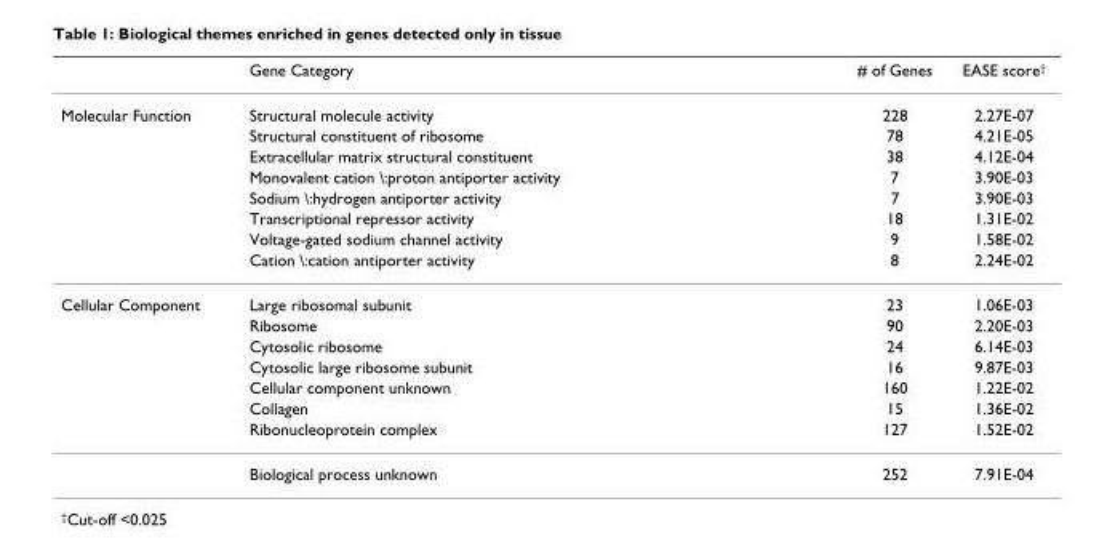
<table><thead><tr><td></td><td>Gene Category</td><td># of Genes</td><td>EASE score<sup>†</sup></td></tr></thead><tbody><tr><td rowspan="8">Molecular Function</td><td>Structural molecule activity</td><td>228</td><td>2.27E-07</td></tr><tr><td>Structural constituent of ribosome</td><td>78</td><td>4.21E-05</td></tr><tr><td>Extracellular matrix structural constituent</td><td>38</td><td>4.12E-04</td></tr><tr><td>Monovalent cation \:proton antiporter activity</td><td>7</td><td>3.90E-03</td></tr><tr><td>Sodium \:hydrogen antiporter activity</td><td>7</td><td>3.90E-03</td></tr><tr><td>Transcriptional repressor activity</td><td>18</td><td>1.31E-02</td></tr><tr><td>Voltage-gated sodium channel activity</td><td>9</td><td>1.58E-02</td></tr><tr><td>Cation \:cation antiporter activity</td><td>8</td><td>2.24E-02</td></tr><tr><td rowspan="8">Cellular Component</td><td>Large ribosomal subunit</td><td>23</td><td>1.06E-03</td></tr><tr><td>Ribosome</td><td>90</td><td>2.20E-03</td></tr><tr><td>Cytosolic ribosome</td><td>24</td><td>6.14E-03</td></tr><tr><td>Cytosolic large ribosome subunit</td><td>16</td><td>9.87E-03</td></tr><tr><td>Cellular component unknown</td><td>160</td><td>1.22E-02</td></tr><tr><td>Collagen</td><td>15</td><td>1.36E-02</td></tr><tr><td>Ribonucleoprotein complex</td><td>127</td><td>1.52E-02</td></tr><tr><td>Biological process unknown</td><td>252</td><td>7.91E-04</td></tr></tbody></table>